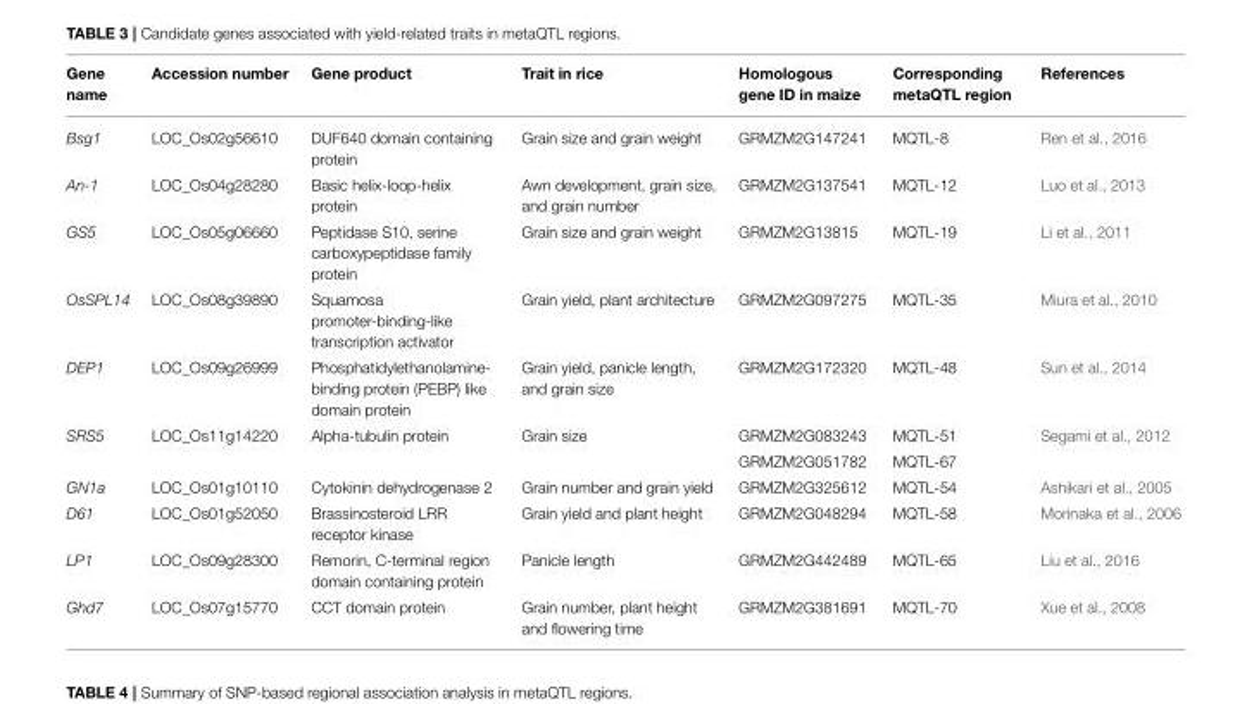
<table><thead><tr><td>Gene name</td><td>Accession number</td><td>Gene product</td><td>Trait in rice</td><td>Homologous gene ID in maize</td><td>Corresponding metaQTL region</td><td>References</td></tr></thead><tbody><tr><td>Bsg1</td><td>LOC_Os02g56610</td><td>DUF640 domain containing protein</td><td>Grain size and grain weight</td><td>GRMZM2G147241</td><td>MQTL-8</td><td>Ren et al., 2016</td></tr><tr><td>An-1</td><td>LOC_Os04g28280</td><td>Basic helix-loop-helix protein</td><td>Awn development, grain size, and grain number</td><td>GRMZM2G137541</td><td>MQTL-12</td><td>Luo et al., 2013</td></tr><tr><td>GS5</td><td>LOC_Os05g06660</td><td>Peptidase S10, serine carboxypeptidase family protein</td><td>Grain size and grain weight</td><td>GRMZM2G13815</td><td>MQTL-19</td><td>Li et al., 2011</td></tr><tr><td>OsSPL14</td><td>LOC_Os08g39890</td><td>Squamosa promoter-binding-like transcription activator</td><td>Grain yield, plant architecture</td><td>GRMZM2G097275</td><td>MQTL-35</td><td>Miura et al., 2010</td></tr><tr><td>DEP1</td><td>LOC_Os09g26999</td><td>Phosphatidylethanolamine- binding protein (PEBP) like domain protein</td><td>Grain yield, panicle length, and grain size</td><td>GRMZM2G172320</td><td>MQTL-48</td><td>Sun et al., 2014</td></tr><tr><td rowspan="2">SRS5</td><td>LOC_Os11g14220</td><td>Alpha-tubulin protein</td><td>Grain size</td><td>GRMZM2G083243</td><td>MQTL-51</td><td>Segami et al., 2012</td></tr><tr><td></td><td></td><td></td><td>GRMZM2G051782</td><td>MQTL-67</td><td></td></tr><tr><td>GN1a</td><td>LOC_Os01g10110</td><td>Cytokinin dehydrogenase 2</td><td>Grain number and grain yield</td><td>GRMZM2G325612</td><td>MQTL-54</td><td>Ashikari et al., 2005</td></tr><tr><td>D61</td><td>LOC_Os01g52050</td><td>Brassinosteroid LRR receptor kinase</td><td>Grain yield and plant height</td><td>GRMZM2G048294</td><td>MQTL-58</td><td>Morinaka et al., 2006</td></tr><tr><td>LP1</td><td>LOC_Os09g28300</td><td>Remorin, C-terminal region domain containing protein</td><td>Panicle length</td><td>GRMZM2G442489</td><td>MQTL-65</td><td>Liu et al., 2016</td></tr><tr><td>Ghd7</td><td>LOC_Os07g15770</td><td>CCT domain protein</td><td>Grain number, plant height and flowering time</td><td>GRMZM2G381691</td><td>MQTL-70</td><td>Xue et al., 2008</td></tr></tbody></table>